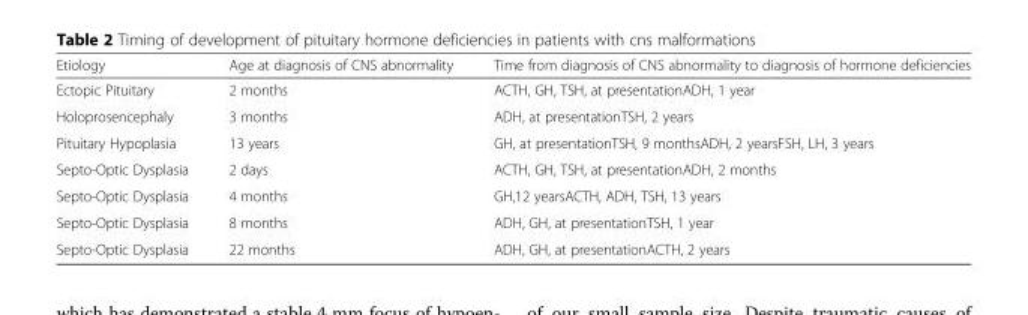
<table><thead><tr><td>Etiology</td><td>Age at diagnosis of CNS abnormality</td><td>Time from diagnosis of CNS abnormality to diagnosis of hormone deficiencies</td></tr></thead><tbody><tr><td>Ectopic Pituitary</td><td>2 months</td><td>ACTH, GH, TSH, at presentationADH, 1 year</td></tr><tr><td>Holoprosencephaly</td><td>3 months</td><td>ADH, at presentationTSH, 2 years</td></tr><tr><td>Pituitary Hypoplasia</td><td>13 years</td><td>GH, at presentationTSH, 9 monthsADH, 2 yearsFSH, LH, 3 years</td></tr><tr><td>Septo-Optic Dysplasia</td><td>2 days</td><td>ACTH, GH, TSH, at presentationADH, 2 months</td></tr><tr><td>Septo-Optic Dysplasia</td><td>4 months</td><td>GH,12 yearsACTH, ADH, TSH, 13 years</td></tr><tr><td>Septo-Optic Dysplasia</td><td>8 months</td><td>ADH, GH, at presentationTSH, 1 year</td></tr><tr><td>Septo-Optic Dysplasia</td><td>22 months</td><td>ADH, GH, at presentationACTH, 2 years</td></tr></tbody></table>